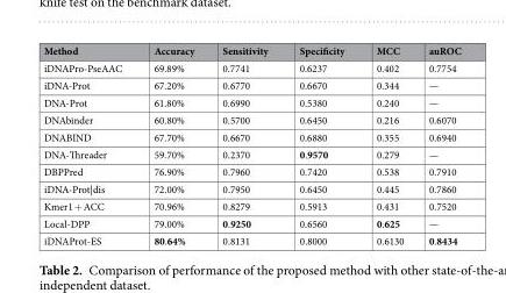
<table><thead><tr><td>Method</td><td>Accuracy</td><td>Sensitivity</td><td>Specificity</td><td>MCC</td><td>auROC</td></tr></thead><tbody><tr><td>iDNAPro-PseAAC</td><td>69.89%</td><td>0.7741</td><td>0.6237</td><td>0.402</td><td>0.7754</td></tr><tr><td>iDNA-Prot</td><td>67.20%</td><td>0.6770</td><td>0.6670</td><td>0.344</td><td>—</td></tr><tr><td>DNA-Prot</td><td>61.80%</td><td>0.6990</td><td>0.5380</td><td>0.240</td><td>—</td></tr><tr><td>DNAbinder</td><td>60.80%</td><td>0.5700</td><td>0.6450</td><td>0.216</td><td>0.6070</td></tr><tr><td>DNABIND</td><td>67.70%</td><td>0.6670</td><td>0.6880</td><td>0.355</td><td>0.6940</td></tr><tr><td>DNA-Threader</td><td>59.70%</td><td>0.2370</td><td>0.9570</td><td>0.279</td><td>—</td></tr><tr><td>DBPPred</td><td>76.90%</td><td>0.7960</td><td>0.7420</td><td>0.538</td><td>0.7910</td></tr><tr><td>iDNA-Prot|dis</td><td>72.00%</td><td>0.7950</td><td>0.6450</td><td>0.445</td><td>0.7860</td></tr><tr><td>Kmer1 + ACC</td><td>70.96%</td><td>0.8279</td><td>0.5913</td><td>0.431</td><td>0.7520</td></tr><tr><td>Local-DPP</td><td>79.00%</td><td>0.9250</td><td>0.6560</td><td>0.625</td><td>—</td></tr><tr><td>iDNAProt-ES</td><td>80.64%</td><td>0.8131</td><td>0.8000</td><td>0.6130</td><td>0.8434</td></tr></tbody></table>